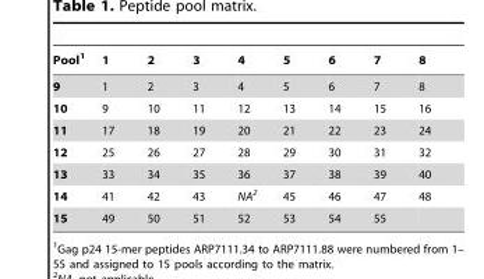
<table><thead><tr><td>Pool<sup>1</sup></td><td>1</td><td>2</td><td>3</td><td>4</td><td>5</td><td>6</td><td>7</td><td>8</td></tr></thead><tbody><tr><td>9</td><td>1</td><td>2</td><td>3</td><td>4</td><td>5</td><td>6</td><td>7</td><td>8</td></tr><tr><td>10</td><td>9</td><td>10</td><td>11</td><td>12</td><td>13</td><td>14</td><td>15</td><td>16</td></tr><tr><td>11</td><td>17</td><td>18</td><td>19</td><td>20</td><td>21</td><td>22</td><td>23</td><td>24</td></tr><tr><td>12</td><td>25</td><td>26</td><td>27</td><td>28</td><td>29</td><td>30</td><td>31</td><td>32</td></tr><tr><td>13</td><td>33</td><td>34</td><td>35</td><td>36</td><td>37</td><td>38</td><td>39</td><td>40</td></tr><tr><td>14</td><td>41</td><td>42</td><td>43</td><td>NA2</td><td>45</td><td>46</td><td>47</td><td>48</td></tr><tr><td>15</td><td>49</td><td>50</td><td>51</td><td>52</td><td>53</td><td>54</td><td>55</td><td></td></tr></tbody></table>